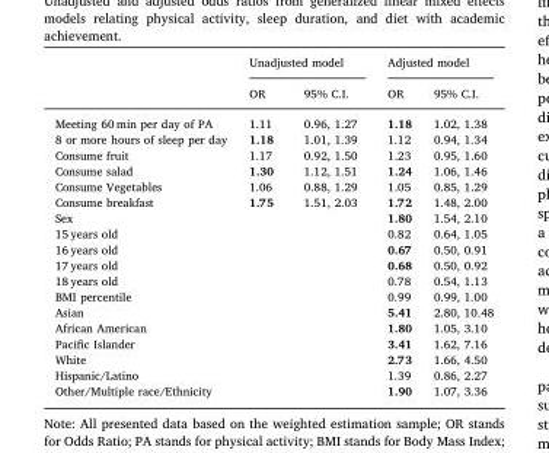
<table><thead><tr><td rowspan="2"></td><td colspan="2">Unadjusted model</td><td colspan="2">Adjusted model</td></tr><tr><td>OR</td><td>95% C.I.</td><td>OR</td><td>95% C.I.</td></tr></thead><tbody><tr><td>Meeting 60 min per day of PA</td><td>1.11</td><td>0.96, 1.27</td><td>1.18</td><td>1.02, 1.38</td></tr><tr><td>8 or more hours of sleep per day</td><td>1.18</td><td>1.01, 1.39</td><td>1.12</td><td>0.94, 1.34</td></tr><tr><td>Consume fruit</td><td>1.17</td><td>0.92, 1.50</td><td>1.23</td><td>0.95, 1.60</td></tr><tr><td>Consume salad</td><td>1.30</td><td>1.12, 1.51</td><td>1.24</td><td>1.06, 1.46</td></tr><tr><td>Consume Vegetables</td><td>1.06</td><td>0.88, 1.29</td><td>1.05</td><td>0.85, 1.29</td></tr><tr><td>Consume breakfast</td><td>1.75</td><td>1.51, 2.03</td><td>1.72</td><td>1.48, 2.00</td></tr><tr><td>Sex</td><td></td><td></td><td>1.80</td><td>1.54, 2.10</td></tr><tr><td>15 years old</td><td></td><td></td><td>0.82</td><td>0.64, 1.05</td></tr><tr><td>16 years old</td><td></td><td></td><td>0.67</td><td>0.50, 0.91</td></tr><tr><td>17 years old</td><td></td><td></td><td>0.68</td><td>0.50, 0.92</td></tr><tr><td>18 years old</td><td></td><td></td><td>0.78</td><td>0.54, 1.13</td></tr><tr><td>BMI percentile</td><td></td><td></td><td>0.99</td><td>0.99, 1.00</td></tr><tr><td>Asian</td><td></td><td></td><td>5.41</td><td>2.80, 10.48</td></tr><tr><td>African American</td><td></td><td></td><td>1.80</td><td>1.05, 3.10</td></tr><tr><td>Pacific Islander</td><td></td><td></td><td>3.41</td><td>1.62, 7.16</td></tr><tr><td>White</td><td></td><td></td><td>2.73</td><td>1.66, 4.50</td></tr><tr><td>Hispanic/Latino</td><td></td><td></td><td>1.39</td><td>0.86, 2.27</td></tr><tr><td>Other/Multiple race/Ethnicity</td><td></td><td></td><td>1.90</td><td>1.07, 3.36</td></tr></tbody></table>